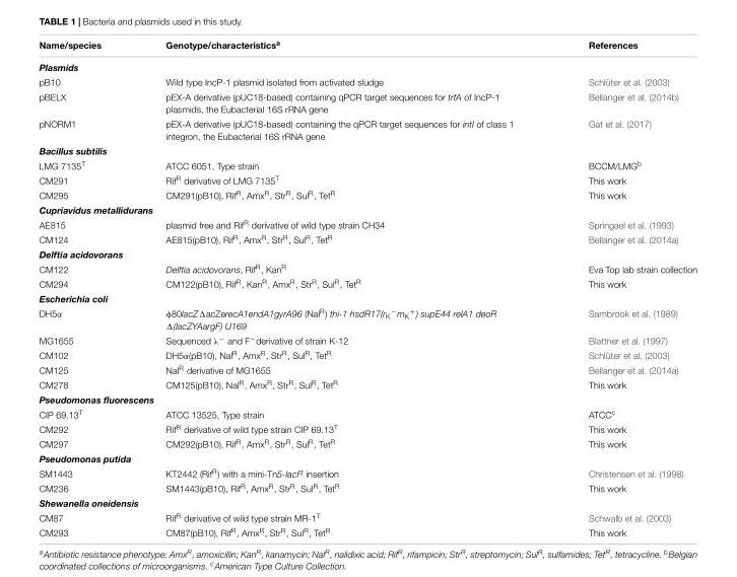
<table><thead><tr><td>Name/species</td><td>Genotype/characteristics<sup>a</sup></td><td>References</td></tr></thead><tbody><tr><td colspan="3">Plasmids</td></tr><tr><td>pB10</td><td>Wild type IncP-1 plasmid isolated from activated sludge</td><td>Schlüter et al. (2003)</td></tr><tr><td>pBELX</td><td>pEX-A derivative (pUC18-based) containing qPCR target sequences for trfA of IncP-1 plasmids, the Eubacterial 16S rRNA gene</td><td>Bellanger et al. (2014b)</td></tr><tr><td>pNORM1</td><td>pEX-A derivative (pUC18-based) containing the qPCR target sequences for intI of class 1 integron, the Eubacterial 16S rRNA gene</td><td>Gat et al. (2017)</td></tr><tr><td colspan="3">Bacillus subtilis</td></tr><tr><td>LMG 7135<sup>T</sup></td><td>ATCC 6051, Type strain</td><td>BCCM/LMG<sup>b</sup></td></tr><tr><td>CM291</td><td>Rif<sup>R</sup> derivative of LMG 7135<sup>T</sup></td><td>This work</td></tr><tr><td>CM295</td><td>CM291(pB10), Rif<sup>R</sup>, Amx<sup>R</sup>, Str<sup>R</sup>, Sul<sup>R</sup>, Tet<sup>R</sup></td><td>This work</td></tr><tr><td colspan="3">Cupriavidus metallidurans</td></tr><tr><td>AE815</td><td>plasmid free and Rif<sup>R</sup> derivative of wild type strain CH34</td><td>Springael et al. (1993)</td></tr><tr><td>CM124</td><td>AE815(pB10), Rif<sup>R</sup>, Amx<sup>R</sup>, Str<sup>R</sup>, Sul<sup>R</sup>, Tet<sup>R</sup></td><td>Bellanger et al. (2014a)</td></tr><tr><td colspan="3">Delftia acidovorans</td></tr><tr><td>CM122</td><td>Delftia acidovorans, Rif<sup>R</sup>, Kan<sup>R</sup></td><td>Eva Top lab strain collection</td></tr><tr><td>CM294</td><td>CM122(pB10), Rif<sup>R</sup>, Kan<sup>R</sup>, Amx<sup>R</sup>, Str<sup>R</sup>, Sul<sup>R</sup>, Tet<sup>R</sup></td><td>This work</td></tr><tr><td colspan="3">Escherichia coli</td></tr><tr><td>DH5α</td><td>φ80lacZΔacZerecA1endA1gyrA96 (Nal<sup>R</sup>) thi-1 hsdR17(r<sub>K</sub><sup>−</sup>m<sub>K</sub><sup>+</sup>) supE44 relA1 deoR Δ(lacZYAargF) U169</td><td>Sambrook et al. (1989)</td></tr><tr><td>MG1655</td><td>Sequenced λ<sup>−</sup> and F<sup>−</sup>derivative of strain K-12</td><td>Blattner et al. (1997)</td></tr><tr><td>CM102</td><td>DH5α(pB10), Nal<sup>R</sup>, Amx<sup>R</sup>, Str<sup>R</sup>, Sul<sup>R</sup>, Tet<sup>R</sup></td><td>Schlüter et al. (2003)</td></tr><tr><td>CM125</td><td>Nal<sup>R</sup> derivative of MG1655</td><td>Bellanger et al. (2014a)</td></tr><tr><td>CM278</td><td>CM125(pB10), Nal<sup>R</sup>, Amx<sup>R</sup>, Str<sup>R</sup>, Sul<sup>R</sup>, Tet<sup>R</sup></td><td>This work</td></tr><tr><td colspan="3">Pseudomonas fluorescens</td></tr><tr><td>CIP 69.13<sup>T</sup></td><td>ATCC 13525, Type strain</td><td>ATCC<sup>c</sup></td></tr><tr><td>CM292</td><td>Rif<sup>R</sup> derivative of wild type strain CIP 69.13<sup>T</sup></td><td>This work</td></tr><tr><td>CM297</td><td>CM292(pB10), Rif<sup>R</sup>, Amx<sup>R</sup>, Str<sup>R</sup>, Sul<sup>R</sup>, Tet<sup>R</sup></td><td>This work</td></tr><tr><td colspan="3">Pseudomonas putida</td></tr><tr><td>SM1443</td><td>KT2442 (Rif<sup>R</sup>) with a mini-Tn5-lacI<sup>q</sup> insertion</td><td>Christensen et al. (1998)</td></tr><tr><td>CM236</td><td>SM1443(pB10), Rif<sup>R</sup>, Amx<sup>R</sup>, Str<sup>R</sup>, Sul<sup>R</sup>, Tet<sup>R</sup></td><td>This work</td></tr><tr><td colspan="3">Shewanella oneidensis</td></tr><tr><td>CM87</td><td>Rif<sup>R</sup> derivative of wild type strain MR-1<sup>T</sup></td><td>Schwalb et al. (2003)</td></tr><tr><td>CM293</td><td>CM87(pB10), Rif<sup>R</sup>, Amx<sup>R</sup>, Str<sup>R</sup>, Sul<sup>R</sup>, Tet<sup>R</sup></td><td>This work</td></tr></tbody></table>